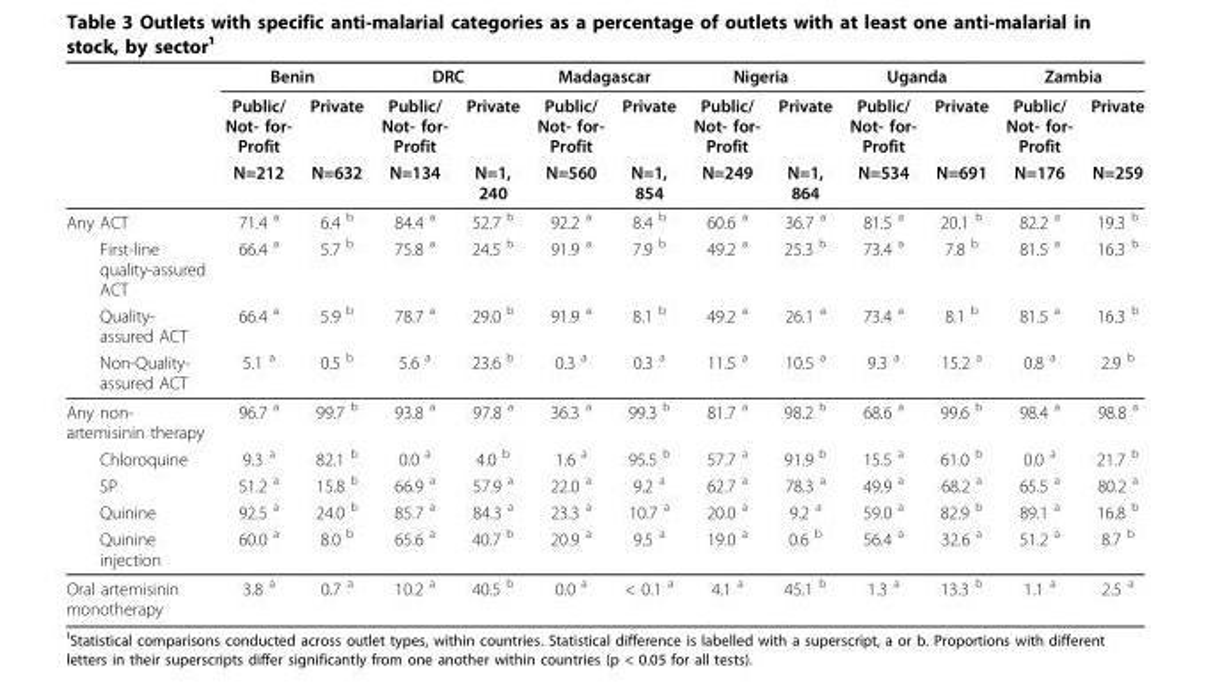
<table><thead><tr><td rowspan="3"></td><td colspan="2">Benin</td><td colspan="2">DRC</td><td colspan="2">Madagascar</td><td colspan="2">Nigeria</td><td colspan="2">Uganda</td><td colspan="2">Zambia</td></tr><tr><td rowspan="2">Public/ Not- for- Profit N=212</td><td rowspan="2">Private N=632</td><td rowspan="2">Public/ Not- for- Profit N=134</td><td rowspan="2">Private N=1, 240</td><td rowspan="2">Public/ Not- for- Profit N=560</td><td rowspan="2">Private N=1, 854</td><td rowspan="2">Public/ Not- for- Profit N=249</td><td rowspan="2">Private N=1, 864</td><td rowspan="2">Public/ Not- for- Profit N=534</td><td rowspan="2">Private N=691</td><td rowspan="2">Public/ Not- for- Profit N=176</td><td rowspan="2">Private N=259</td></tr><tr></tr></thead><tbody><tr><td>Any ACT</td><td>71.4 a</td><td>6.4 b</td><td>84.4 a</td><td>52.7 b</td><td>92.2 a</td><td>8.4 b</td><td>60.6 a</td><td>36.7 a</td><td>81.5 a</td><td>20.1 b</td><td>82.2 a</td><td>19.3 b</td></tr><tr><td>First-line quality-assured ACT</td><td>66.4 a</td><td>5.7 b</td><td>75.8 a</td><td>24.5 b</td><td>91.9 a</td><td>7.9 b</td><td>49.2 a</td><td>25.3 b</td><td>73.4 a</td><td>7.8 b</td><td>81.5 a</td><td>16.3 b</td></tr><tr><td>Quality- assured ACT</td><td>66.4 a</td><td>5.9 b</td><td>78.7 a</td><td>29.0 b</td><td>91.9 a</td><td>8.1 b</td><td>49.2 a</td><td>26.1 a</td><td>73.4 a</td><td>8.1 b</td><td>81.5 a</td><td>16.3 b</td></tr><tr><td>Non-Quality- assured ACT</td><td>5.1 a</td><td>0.5 b</td><td>5.6 a</td><td>23.6 b</td><td>0.3 a</td><td>0.3 a</td><td>11.5 a</td><td>10.5 a</td><td>9.3 a</td><td>15.2 a</td><td>0.8 a</td><td>2.9 b</td></tr><tr><td>Any non- artemisinin therapy</td><td>96.7 <sup>a</sup></td><td>99.7 <sup>b</sup></td><td>93.8 <sup>a</sup></td><td>97.8 <sup>a</sup></td><td>36.3 <sup>a</sup></td><td>99.3 <sup>b</sup></td><td>81.7 <sup>a</sup></td><td>98.2 <sup>b</sup></td><td>68.6 <sup>a</sup></td><td>99.6 <sup>b</sup></td><td>98.4 <sup>a</sup></td><td>98.8 <sup>a</sup></td></tr><tr><td>Chloroquine</td><td>9.3 a</td><td>82.1 <sup>b</sup></td><td>0.0 <sup>a</sup></td><td>4.0 <sup>b</sup></td><td>1.6 <sup>a</sup></td><td>95.5 <sup>b</sup></td><td>57.7 <sup>a</sup></td><td>91.9 <sup>b</sup></td><td>15.5 <sup>a</sup></td><td>61.0 <sup>b</sup></td><td>0.0 <sup>a</sup></td><td>21.7 <sup>b</sup></td></tr><tr><td>SP</td><td>51.2 <sup>a</sup></td><td>15.8 <sup>b</sup></td><td>66.9 <sup>a</sup></td><td>57.9 <sup>a</sup></td><td>22.0 <sup>a</sup></td><td>9.2 <sup>a</sup></td><td>62.7 <sup>a</sup></td><td>78.3 <sup>a</sup></td><td>49.9 <sup>a</sup></td><td>68.2 <sup>a</sup></td><td>65.5 <sup>a</sup></td><td>80.2 <sup>a</sup></td></tr><tr><td>Quinine</td><td>92.5 <sup>a</sup></td><td>24.0 <sup>b</sup></td><td>85.7 <sup>a</sup></td><td>84.3 <sup>a</sup></td><td>23.3 <sup>a</sup></td><td>10.7 <sup>a</sup></td><td>20.0 <sup>a</sup></td><td>9.2 <sup>a</sup></td><td>59.0 <sup>a</sup></td><td>82.9 <sup>b</sup></td><td>89.1 <sup>a</sup></td><td>16.8 <sup>b</sup></td></tr><tr><td>Quinine injection</td><td>60.0 <sup>a</sup></td><td>8.0 <sup>b</sup></td><td>65.6 <sup>a</sup></td><td>40.7 <sup>b</sup></td><td>20.9 <sup>a</sup></td><td>9.5 <sup>a</sup></td><td>19.0 <sup>a</sup></td><td>0.6 <sup>b</sup></td><td>56.4 <sup>a</sup></td><td>32.6 <sup>a</sup></td><td>51.2 <sup>a</sup></td><td>8.7 <sup>b</sup></td></tr><tr><td>Oral artemisinin monotherapy</td><td>3.8 <sup>a</sup></td><td>0.7 <sup>a</sup></td><td>10.2 <sup>a</sup></td><td>40.5 <sup>b</sup></td><td>0.0 <sup>a</sup></td><td>&lt; 0.1 <sup>a</sup></td><td>4.1 <sup>a</sup></td><td>45.1 <sup>b</sup></td><td>1.3 <sup>a</sup></td><td>13.3 <sup>b</sup></td><td>1.1 <sup>a</sup></td><td>2.5 <sup>a</sup></td></tr></tbody></table>